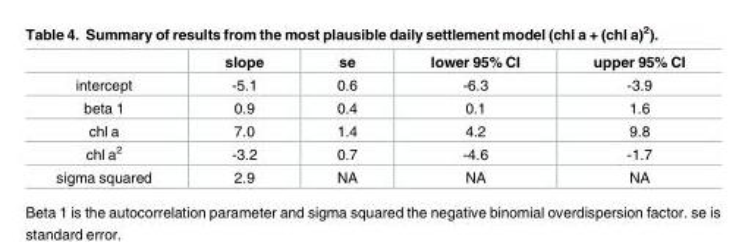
<table><thead><tr><td></td><td>slope</td><td>se</td><td>lower 95% CI</td><td>upper 95% CI</td></tr></thead><tbody><tr><td>intercept</td><td>-5.1</td><td>0.6</td><td>-6.3</td><td>-3.9</td></tr><tr><td>beta 1</td><td>0.9</td><td>0.4</td><td>0.1</td><td>1.6</td></tr><tr><td>chl a</td><td>7.0</td><td>1.4</td><td>4.2</td><td>9.8</td></tr><tr><td>chl a<sup>2</sup></td><td>-3.2</td><td>0.7</td><td>-4.6</td><td>-1.7</td></tr><tr><td>sigma squared</td><td>2.9</td><td>NA</td><td>NA</td><td>NA</td></tr></tbody></table>